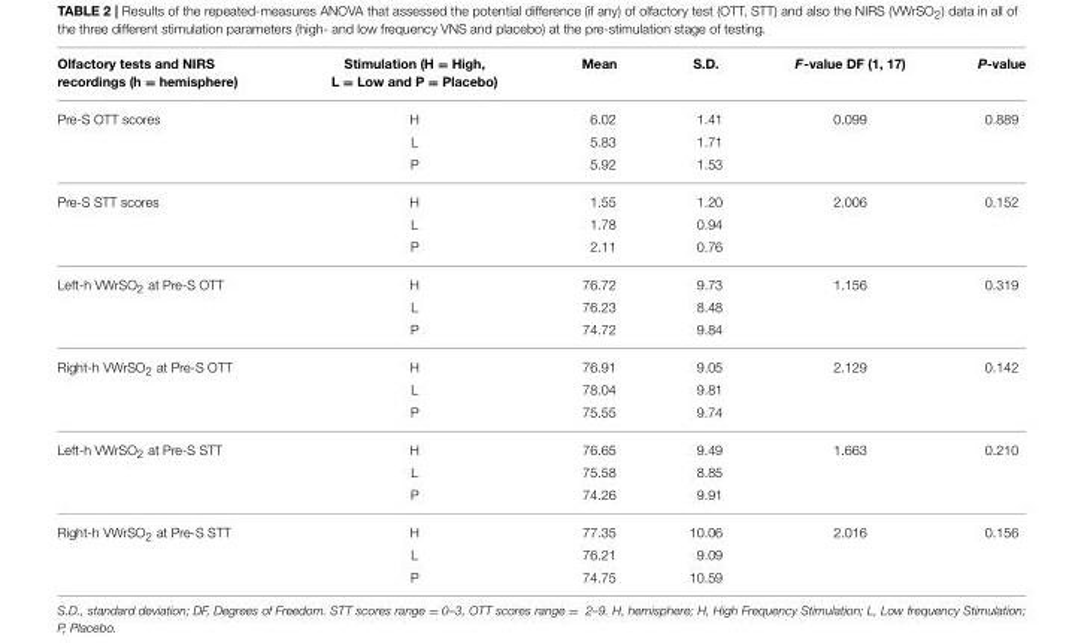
<table><thead><tr><td>Olfactory tests and NIRS recordings (h = hemisphere)</td><td>Stimulation (H = High, L = Low and P = Placebo)</td><td>Mean</td><td>S.D.</td><td>F-value DF (1, 17)</td><td>P-value</td></tr></thead><tbody><tr><td rowspan="3">Pre-S OTT scores</td><td>H</td><td>6.02</td><td>1.41</td><td>0.099</td><td>0.889</td></tr><tr><td>L</td><td>5.83</td><td>1.71</td><td></td><td></td></tr><tr><td>P</td><td>5.92</td><td>1.53</td><td></td><td></td></tr><tr><td rowspan="3">Pre-S STT scores</td><td>H</td><td>1.55</td><td>1.20</td><td>2.006</td><td>0.152</td></tr><tr><td>L</td><td>1.78</td><td>0.94</td><td></td><td></td></tr><tr><td>P</td><td>2.11</td><td>0.76</td><td></td><td></td></tr><tr><td rowspan="3">Left-h VWrSO<sub>2</sub> at Pre-S OTT</td><td>H</td><td>76.72</td><td>9.73</td><td>1.156</td><td>0.319</td></tr><tr><td>L</td><td>76.23</td><td>8.48</td><td></td><td></td></tr><tr><td>P</td><td>74.72</td><td>9.84</td><td></td><td></td></tr><tr><td rowspan="3">Right-h VWrSO<sub>2</sub> at Pre-S OTT</td><td>H</td><td>76.91</td><td>9.05</td><td>2.129</td><td>0.142</td></tr><tr><td>L</td><td>78.04</td><td>9.81</td><td></td><td></td></tr><tr><td>P</td><td>75.55</td><td>9.74</td><td></td><td></td></tr><tr><td rowspan="3">Left-h VWrSO<sub>2</sub> at Pre-S STT</td><td>H</td><td>76.65</td><td>9.49</td><td>1.663</td><td>0.210</td></tr><tr><td>L</td><td>75.58</td><td>8.85</td><td></td><td></td></tr><tr><td>P</td><td>74.26</td><td>9.91</td><td></td><td></td></tr><tr><td rowspan="3">Right-h VWrSO<sub>2</sub> at Pre-S STT</td><td>H</td><td>77.35</td><td>10.06</td><td>2.016</td><td>0.156</td></tr><tr><td>L</td><td>76.21</td><td>9.09</td><td></td><td></td></tr><tr><td>P</td><td>74.75</td><td>10.59</td><td></td><td></td></tr></tbody></table>